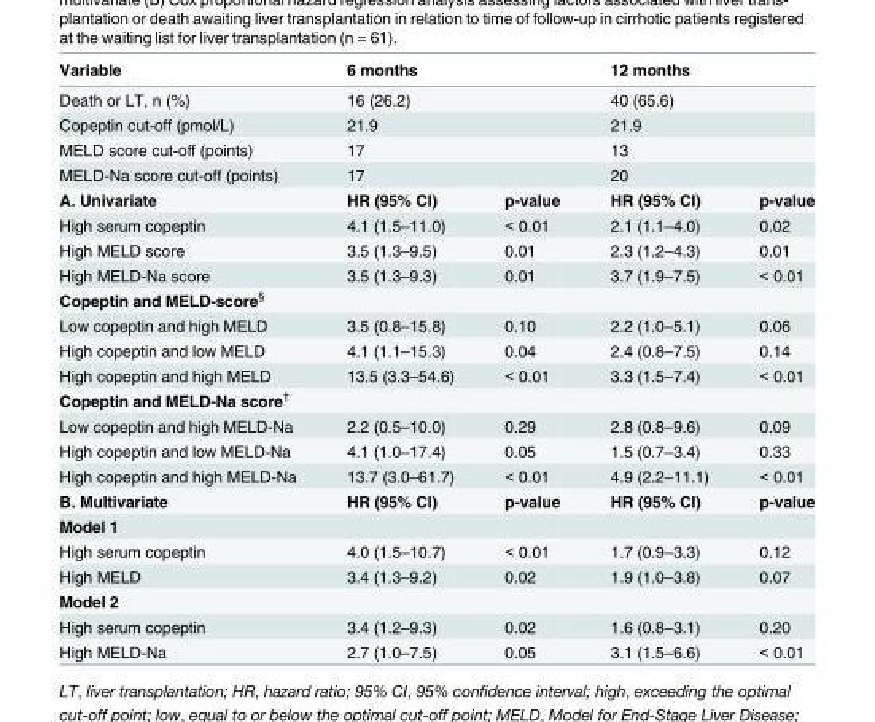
<table><thead><tr><td>Variable</td><td colspan="2">6 months</td><td colspan="2">12 months</td></tr></thead><tbody><tr><td>Death or LT, n (%)</td><td colspan="2">16 (26.2)</td><td colspan="2">40 (65.6)</td></tr><tr><td>Copeptin cut-off (pmol/L)</td><td colspan="2">21.9</td><td colspan="2">21.9</td></tr><tr><td>MELD score cut-off (points)</td><td colspan="2">17</td><td colspan="2">13</td></tr><tr><td>MELD-Na score cut-off (points)</td><td colspan="2">17</td><td colspan="2">20</td></tr><tr><td>A. Univariate</td><td>HR (95% CI)</td><td>p-value</td><td>HR (95% CI)</td><td>p-value</td></tr><tr><td>High serum copeptin</td><td>4.1 (1.5–11.0)</td><td>&lt; 0.01</td><td>2.1 (1.1–4.0)</td><td>0.02</td></tr><tr><td>High MELD score</td><td>3.5 (1.3–9.5)</td><td>0.01</td><td>2.3 (1.2–4.3)</td><td>0.01</td></tr><tr><td>High MELD-Na score</td><td>3.5 (1.3–9.3)</td><td>0.01</td><td>3.7 (1.9–7.5)</td><td>&lt; 0.01</td></tr><tr><td colspan="5">Copeptin and MELD-score<sup>§</sup></td></tr><tr><td>Low copeptin and high MELD</td><td>3.5 (0.8–15.8)</td><td>0.10</td><td>2.2 (1.0–5.1)</td><td>0.06</td></tr><tr><td>High copeptin and low MELD</td><td>4.1 (1.1–15.3)</td><td>0.04</td><td>2.4 (0.8–7.5)</td><td>0.14</td></tr><tr><td>High copeptin and high MELD</td><td>13.5 (3.3–54.6)</td><td>&lt; 0.01</td><td>3.3 (1.5–7.4)</td><td>&lt; 0.01</td></tr><tr><td colspan="5">Copeptin and MELD-Na score<sup>†</sup></td></tr><tr><td>Low copeptin and high MELD-Na</td><td>2.2 (0.5–10.0)</td><td>0.29</td><td>2.8 (0.8–9.6)</td><td>0.09</td></tr><tr><td>High copeptin and low MELD-Na</td><td>4.1 (1.0–17.4)</td><td>0.05</td><td>1.5 (0.7–3.4)</td><td>0.33</td></tr><tr><td>High copeptin and high MELD-Na</td><td>13.7 (3.0–61.7)</td><td>&lt; 0.01</td><td>4.9 (2.2–11.1)</td><td>&lt; 0.01</td></tr><tr><td>B. Multivariate</td><td>HR (95% CI)</td><td>p-value</td><td>HR (95% CI)</td><td>p-value</td></tr><tr><td colspan="5">Model 1</td></tr><tr><td>High serum copeptin</td><td>4.0 (1.5–10.7)</td><td>&lt; 0.01</td><td>1.7 (0.9–3.3)</td><td>0.12</td></tr><tr><td>High MELD</td><td>3.4 (1.3–9.2)</td><td>0.02</td><td>1.9 (1.0–3.8)</td><td>0.07</td></tr><tr><td colspan="5">Model 2</td></tr><tr><td>High serum copeptin</td><td>3.4 (1.2–9.3)</td><td>0.02</td><td>1.6 (0.8–3.1)</td><td>0.20</td></tr><tr><td>High MELD-Na</td><td>2.7 (1.0–7.5)</td><td>0.05</td><td>3.1 (1.5–6.6)</td><td>&lt; 0.01</td></tr></tbody></table>